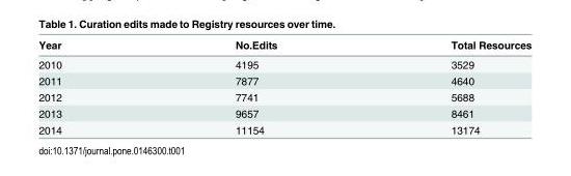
<table><thead><tr><td>Year</td><td>No.Edits</td><td>Total Resources</td></tr></thead><tbody><tr><td>2010</td><td>4195</td><td>3529</td></tr><tr><td>2011</td><td>7877</td><td>4640</td></tr><tr><td>2012</td><td>7741</td><td>5688</td></tr><tr><td>2013</td><td>9657</td><td>8461</td></tr><tr><td>2014</td><td>11154</td><td>13174</td></tr></tbody></table>